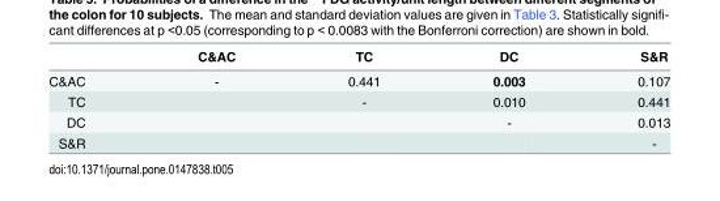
<table><thead><tr><td></td><td>C&amp;AC</td><td>TC</td><td>DC</td><td>S&amp;R</td></tr></thead><tbody><tr><td>C&amp;AC</td><td>-</td><td>0.441</td><td>0.003</td><td>0.107</td></tr><tr><td>TC</td><td></td><td>-</td><td>0.010</td><td>0.441</td></tr><tr><td>DC</td><td></td><td></td><td>-</td><td>0.013</td></tr><tr><td>S&amp;R</td><td></td><td></td><td></td><td>-</td></tr></tbody></table>